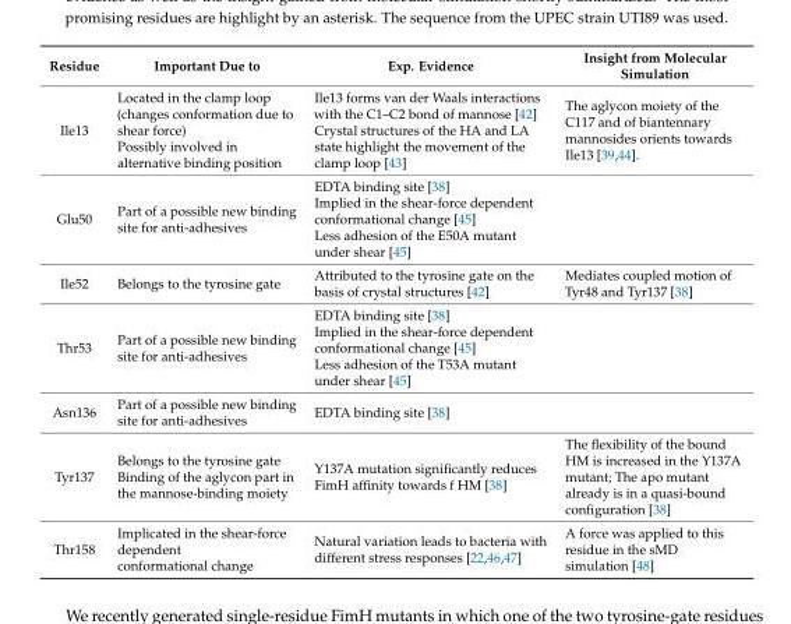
<table><thead><tr><td>Residue</td><td>Important Due to</td><td>Exp. Evidence</td><td>Insight from Molecular Simulation</td></tr></thead><tbody><tr><td>Ile13</td><td>Located in the clamp loop (changes conformation due to shear force) Possibly involved in alternative binding position</td><td>Ile13 forms van der Waals interactions with the C1–C2 bond of mannose [42] Crystal structures of the HA and LA state highlight the movement of the clamp loop [43]</td><td>The aglycon moiety of the C117 and of biantennary mannosides orients towards Ile13 [39,44].</td></tr><tr><td>Glu50</td><td>Part of a possible new binding site for anti-adhesives</td><td>EDTA binding site [38] Implied in the shear-force dependent conformational change [45] Less adhesion of the E50A mutant under shear [45]</td><td></td></tr><tr><td>Ile52</td><td>Belongs to the tyrosine gate</td><td>Attributed to the tyrosine gate on the basis of crystal structures [42]</td><td>Mediates coupled motion of Tyr48 and Tyr137 [38]</td></tr><tr><td>Thr53</td><td>Part of a possible new binding site for anti-adhesives</td><td>EDTA binding site [38] Implied in the shear-force dependent conformational change [45] Less adhesion of the T53A mutant under shear [45]</td><td></td></tr><tr><td>Asn136</td><td>Part of a possible new binding site for anti-adhesives</td><td>EDTA binding site [38]</td><td></td></tr><tr><td>Tyr137</td><td>Belongs to the tyrosine gate Binding of the aglycon part in the mannose-binding moiety</td><td>Y137A mutation significantly reduces FimH affinity towards f HM [38]</td><td>The flexibility of the bound HM is increased in the Y137A mutant; The apo mutant already is in a quasi-bound configuration [38]</td></tr><tr><td>Thr158</td><td>Implicated in the shear-force dependent conformational change</td><td>Natural variation leads to bacteria with different stress responses [22,46,47]</td><td>A force was applied to this residue in the sMD simulation [48]</td></tr></tbody></table>